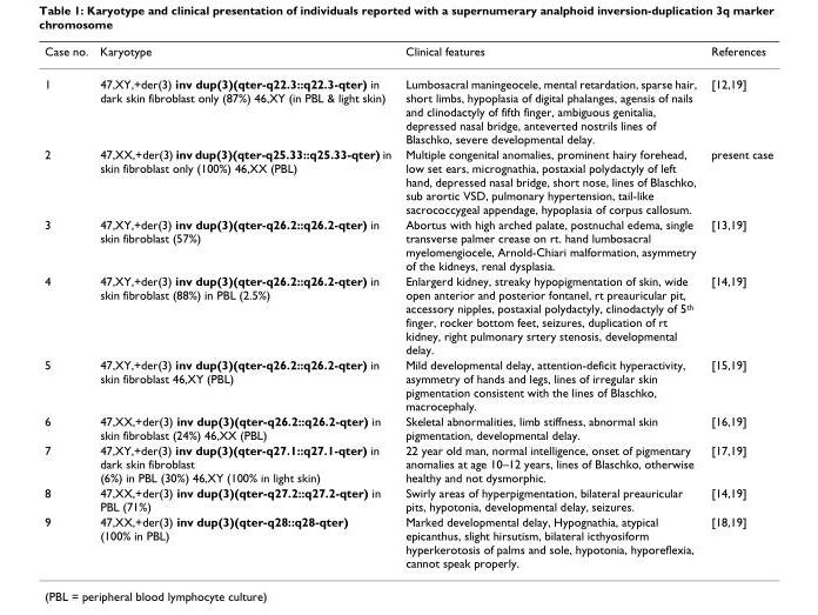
<table><thead><tr><td>Case no.</td><td>Karyotype</td><td>Clinical features</td><td>References</td></tr></thead><tbody><tr><td>1</td><td>47,XY,+der(3) inv dup(3)(qter-q22.3::q22.3-qter) in dark skin fibroblast only (87%) 46,XY (in PBL &amp; light skin)</td><td>Lumbosacral maningeocele, mental retardation, sparse hair, short limbs, hypoplasia of digital phalanges, agensis of nails and clinodactyly of fifth finger, ambiguous genitalia, depressed nasal bridge, anteverted nostrils lines of Blaschko, severe developmental delay.</td><td>[12,19]</td></tr><tr><td>2</td><td>47,XX,+der(3) inv dup(3)(qter-q25.33::q25.33-qter) in skin fibroblast only (100%) 46,XX (PBL)</td><td>Multiple congenital anomalies, prominent hairy forehead, low set ears, micrognathia, postaxial polydactyly of left hand, depressed nasal bridge, short nose, lines of Blaschko, sub arortic VSD, pulmonary hypertension, tail-like sacrococcygeal appendage, hypoplasia of corpus callosum.</td><td>present case</td></tr><tr><td>3</td><td>47,XY,+der(3) inv dup(3)(qter-q26.2::q26.2-qter) in skin fibroblast (57%)</td><td>Abortus with high arched palate, postnuchal edema, single transverse palmer crease on rt. hand lumbosacral myelomengiocele, Arnold-Chiari malformation, asymmetry of the kidneys, renal dysplasia.</td><td>[13,19]</td></tr><tr><td>4</td><td>47,XY,+der(3) inv dup(3)(qter-q26.2::q26.2-qter) in skin fibroblast (88%) in PBL (2.5%)</td><td>Enlargerd kidney, streaky hypopigmentation of skin, wide open anterior and posterior fontanel, rt preauricular pit, accessory nipples, postaxial polydactyly, clinodactyly of 5<sup>th</sup> finger, rocker bottom feet, seizures, duplication of rt kidney, right pulmonary srtery stenosis, developmental delay.</td><td>[14,19]</td></tr><tr><td>5</td><td>47,XY,+der(3) inv dup(3)(qter-q26.2::q26.2-qter) in skin fibroblast 46,XY (PBL)</td><td>Mild developmental delay, attention-deficit hyperactivity, asymmetry of hands and legs, lines of irregular skin pigmentation consistent with the lines of Blaschko, macrocephaly.</td><td>[15,19]</td></tr><tr><td>6</td><td>47,XX,+der(3) inv dup(3)(qter-q26.2::q26.2-qter) in skin fibroblast (24%) 46,XX (PBL)</td><td>Skeletal abnormalities, limb stiffness, abnormal skin pigmentation, developmental delay.</td><td>[16,19]</td></tr><tr><td>7</td><td>47,XY,+der(3) inv dup(3)(qter-q27.1::q27.1-qter) in dark skin fibroblast (6%) in PBL (30%) 46,XY (100% in light skin)</td><td>22 year old man, normal intelligence, onset of pigmentary anomalies at age 10–12 years, lines of Blaschko, otherwise healthy and not dysmorphic.</td><td>[17,19]</td></tr><tr><td>8</td><td>47,XX,+der(3) inv dup(3)(qter-q27.2::q27.2-qter) in PBL (71%)</td><td>Swirly areas of hyperpigmentation, bilateral preauricular pits, hypotonia, developmental delay, seizures.</td><td>[14,19]</td></tr><tr><td>9</td><td>47,XX,+der(3) inv dup(3)(qter-q28::q28-qter) (100% in PBL)</td><td>Marked developmental delay, Hypognathia, atypical epicanthus, slight hirsutism, bilateral icthyosiform hyperkerotosis of palms and sole, hypotonia, hyporeflexia, cannot speak properly.</td><td>[18,19]</td></tr></tbody></table>